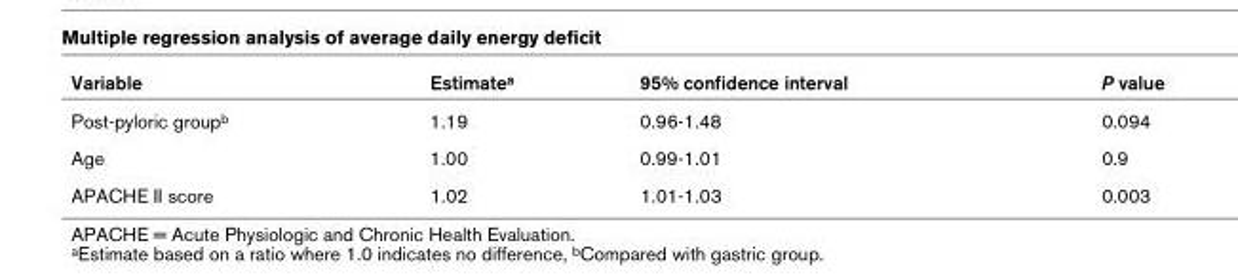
<table><thead><tr><td>Variable</td><td>Estimate<sup>a</sup></td><td>95% confidence interval</td><td>P value</td></tr></thead><tbody><tr><td>Post-pyloric group<sup>b</sup></td><td>1.19</td><td>0.96-1.48</td><td>0.094</td></tr><tr><td>Age</td><td>1.00</td><td>0.99-1.01</td><td>0.9</td></tr><tr><td>APACHE II score</td><td>1.02</td><td>1.01-1.03</td><td>0.003</td></tr></tbody></table>